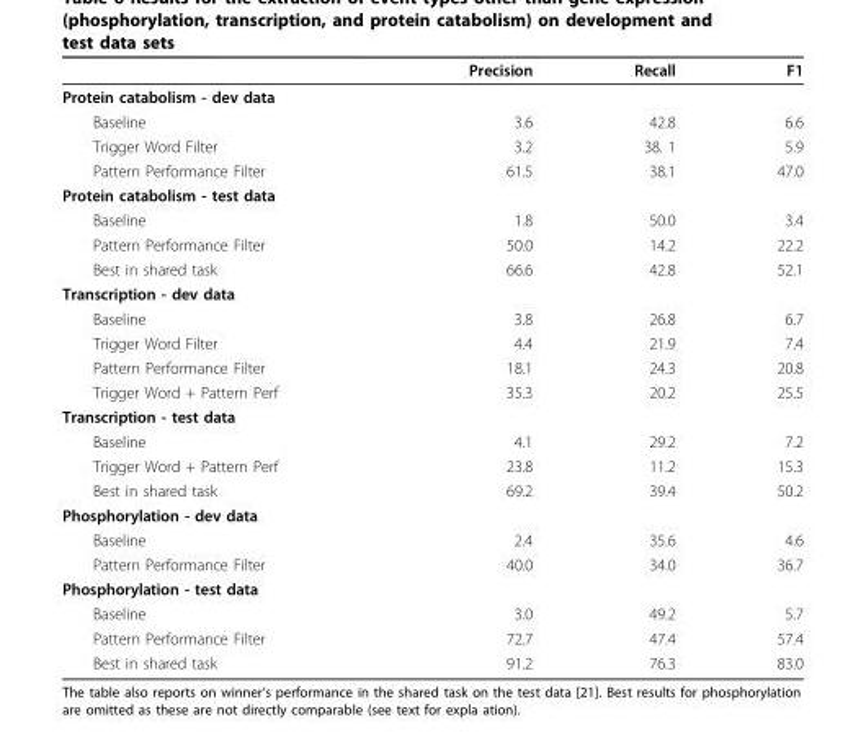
<table><thead><tr><td></td><td>Precision</td><td>Recall</td><td>F1</td></tr></thead><tbody><tr><td colspan="4">Protein catabolism - dev data</td></tr><tr><td>Baseline</td><td>3.6</td><td>42.8</td><td>6.6</td></tr><tr><td>Trigger Word Filter</td><td>3.2</td><td>38. 1</td><td>5.9</td></tr><tr><td>Pattern Performance Filter</td><td>61.5</td><td>38.1</td><td>47.0</td></tr><tr><td colspan="4">Protein catabolism - test data</td></tr><tr><td>Baseline</td><td>1.8</td><td>50.0</td><td>3.4</td></tr><tr><td>Pattern Performance Filter</td><td>50.0</td><td>14.2</td><td>22.2</td></tr><tr><td>Best in shared task</td><td>66.6</td><td>42.8</td><td>52.1</td></tr><tr><td colspan="4">Transcription - dev data</td></tr><tr><td>Baseline</td><td>3.8</td><td>26.8</td><td>6.7</td></tr><tr><td>Trigger Word Filter</td><td>4.4</td><td>21.9</td><td>7.4</td></tr><tr><td>Pattern Performance Filter</td><td>18.1</td><td>24.3</td><td>20.8</td></tr><tr><td>Trigger Word + Pattern Perf</td><td>35.3</td><td>20.2</td><td>25.5</td></tr><tr><td colspan="4">Transcription - test data</td></tr><tr><td>Baseline</td><td>4.1</td><td>29.2</td><td>7.2</td></tr><tr><td>Trigger Word + Pattern Perf</td><td>23.8</td><td>11.2</td><td>15.3</td></tr><tr><td>Best in shared task</td><td>69.2</td><td>39.4</td><td>50.2</td></tr><tr><td colspan="4">Phosphorylation - dev data</td></tr><tr><td>Baseline</td><td>2.4</td><td>35.6</td><td>4.6</td></tr><tr><td>Pattern Performance Filter</td><td>40.0</td><td>34.0</td><td>36.7</td></tr><tr><td colspan="4">Phosphorylation - test data</td></tr><tr><td>Baseline</td><td>3.0</td><td>49.2</td><td>5.7</td></tr><tr><td>Pattern Performance Filter</td><td>72.7</td><td>47.4</td><td>57.4</td></tr><tr><td>Best in shared task</td><td>91.2</td><td>76.3</td><td>83.0</td></tr></tbody></table>